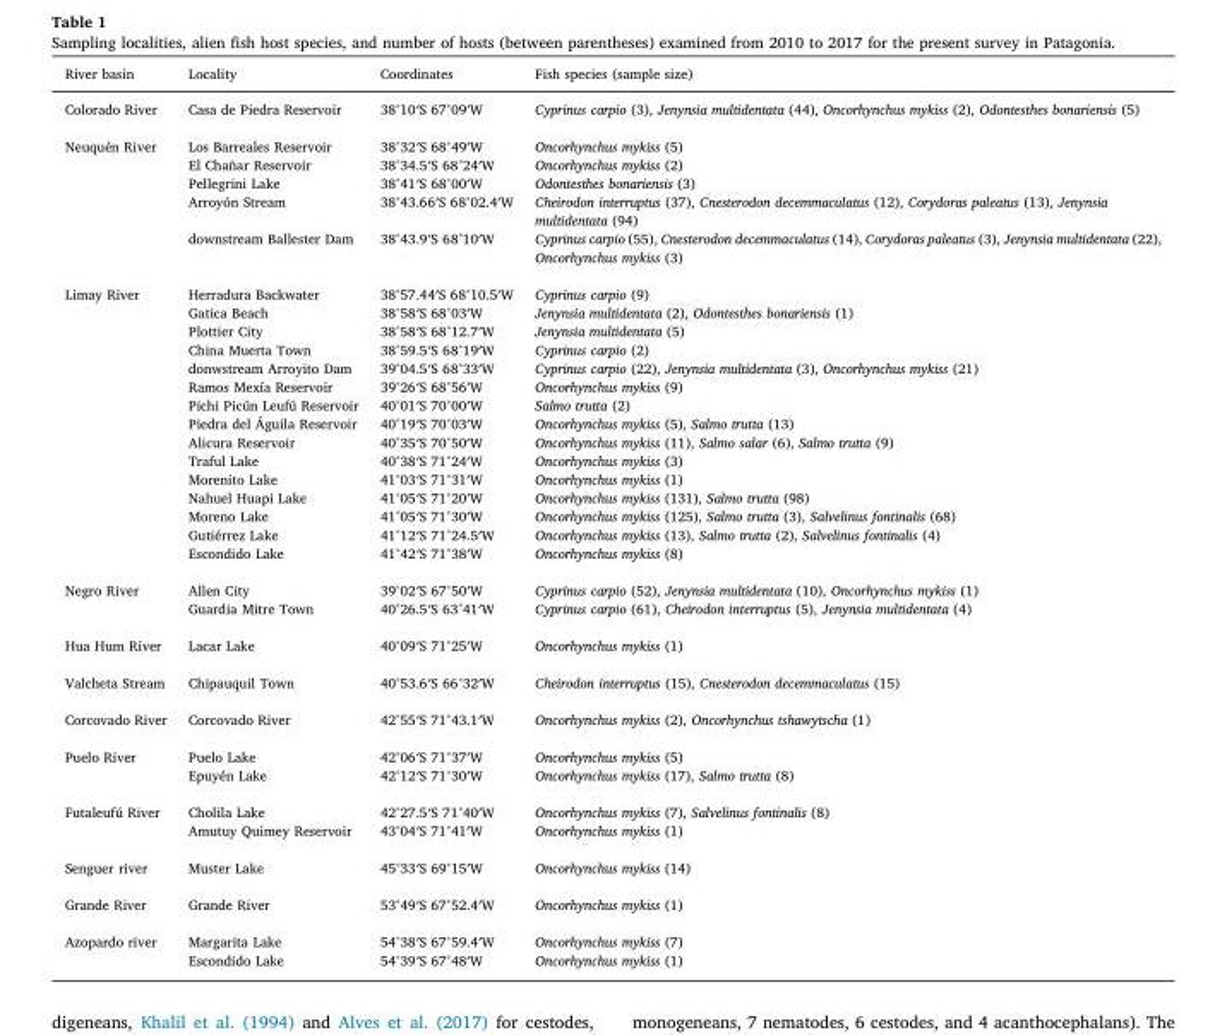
<table><thead><tr><td>River basin</td><td>Locality</td><td>Coordinates</td><td>Fish species (sample size)</td></tr></thead><tbody><tr><td>Colorado River</td><td>Casa de Piedra Reservoir</td><td>38°10′S 67°09′W</td><td>Cyprinus carpio (3), Jenynsia multidentata (44), Oncorhynchus mykiss (2), Odontesthes bonariensis (5)</td></tr><tr><td rowspan="5">Neuquén River</td><td>Los Barreales Reservoir</td><td>38°32′S 68°49′W</td><td>Oncorhynchus mykiss (5)</td></tr><tr><td>El Chañar Reservoir</td><td>38°34.5′S 68°24′W</td><td>Oncorhynchus mykiss (2)</td></tr><tr><td>Pellegrini Lake</td><td>38°41′S 68°00′W</td><td>Odontesthes bonariensis (3)</td></tr><tr><td>Arroyón Stream</td><td>38°43.66′S 68°02.4′W</td><td>Cheirodon interruptus (37), Cnesterodon decemmaculatus (12), Corydoras paleatus (13), Jenynsia multidentata (94)</td></tr><tr><td>downstream Ballester Dam</td><td>38°43.9′S 68°10′W</td><td>Cyprinus carpio (55), Cnesterodon decemmaculatus (14), Corydoras paleatus (3), Jenynsia multidentata (22), Oncorhynchus mykiss (3)</td></tr><tr><td rowspan="15">Limay River</td><td>Herradura Backwater</td><td>38°57.44′S 68°10.5′W</td><td>Cyprinus carpio (9)</td></tr><tr><td>Gatica Beach</td><td>38°58′S 68°03′W</td><td>Jenynsia multidentata (2), Odontesthes bonariensis (1)</td></tr><tr><td>Plottier City</td><td>38°58′S 68°12.7′W</td><td>Jenynsia multidentata (5)</td></tr><tr><td>China Muerta Town</td><td>38°59.5′S 68°19′W</td><td>Cyprinus carpio (2)</td></tr><tr><td>donwstream Arroyito Dam</td><td>39°04.5′S 68°33′W</td><td>Cyprinus carpio (22), Jenynsia multidentata (3), Oncorhynchus mykiss (21)</td></tr><tr><td>Ramos Mexía Reservoir</td><td>39°26′S 68°56′W</td><td>Oncorhynchus mykiss (9)</td></tr><tr><td>Pichi Picún Leufú Reservoir</td><td>40°01′S 70°00′W</td><td>Salmo trutta (2)</td></tr><tr><td>Piedra del Águila Reservoir</td><td>40°19′S 70°03′W</td><td>Oncorhynchus mykiss (5), Salmo trutta (13)</td></tr><tr><td>Alicura Reservoir</td><td>40°35′S 70°50′W</td><td>Oncorhynchus mykiss (11), Salmo salar (6), Salmo trutta (9)</td></tr><tr><td>Traful Lake</td><td>40°38′S 71°24′W</td><td>Oncorhynchus mykiss (3)</td></tr><tr><td>Morenito Lake</td><td>41°03′S 71°31′W</td><td>Oncorhynchus mykiss (1)</td></tr><tr><td>Nahuel Huapi Lake</td><td>41°05′S 71°20′W</td><td>Oncorhynchus mykiss (131), Salmo trutta (98)</td></tr><tr><td>Moreno Lake</td><td>41°05′S 71°30′W</td><td>Oncorhynchus mykiss (125), Salmo trutta (3), Salvelinus fontinalis (68)</td></tr><tr><td>Gutiérrez Lake</td><td>41°12′S 71°24.5′W</td><td>Oncorhynchus mykiss (13), Salmo trutta (2), Salvelinus fontinalis (4)</td></tr><tr><td>Escondido Lake</td><td>41°42′S 71°38′W</td><td>Oncorhynchus mykiss (8)</td></tr><tr><td rowspan="2">Negro River</td><td>Allen City</td><td>39°02′S 67°50′W</td><td>Cyprinus carpio (52), Jenynsia multidentata (10), Oncorhynchus mykiss (1)</td></tr><tr><td>Guardia Mitre Town</td><td>40°26.5′S 63°41′W</td><td>Cyprinus carpio (61), Cheirodon interruptus (5), Jenynsia multidentata (4)</td></tr><tr><td>Hua Hum River</td><td>Lacar Lake</td><td>40°09′S 71°25′W</td><td>Oncorhynchus mykiss (1)</td></tr><tr><td>Valcheta Stream</td><td>Chipauquil Town</td><td>40°53.6′S 66°32′W</td><td>Cheirodon interruptus (15), Cnesterodon decemmaculatus (15)</td></tr><tr><td>Corcovado River</td><td>Corcovado River</td><td>42°55′S 71°43.1′W</td><td>Oncorhynchus mykiss (2), Oncorhynchus tshawytscha (1)</td></tr><tr><td rowspan="2">Puelo River</td><td>Puelo Lake</td><td>42°06′S 71°37′W</td><td>Oncorhynchus mykiss (5)</td></tr><tr><td>Epuyén Lake</td><td>42°12′S 71°30′W</td><td>Oncorhynchus mykiss (17), Salmo trutta (8)</td></tr><tr><td rowspan="2">Futaleufú River</td><td>Cholila Lake</td><td>42°27.5′S 71°40′W</td><td>Oncorhynchus mykiss (7), Salvelinus fontinalis (8)</td></tr><tr><td>Amutuy Quimey Reservoir</td><td>43°04′S 71°41′W</td><td>Oncorhynchus mykiss (1)</td></tr><tr><td>Senguer river</td><td>Muster Lake</td><td>45°33′S 69°15′W</td><td>Oncorhynchus mykiss (14)</td></tr><tr><td>Grande River</td><td>Grande River</td><td>53°49′S 67°52.4′W</td><td>Oncorhynchus mykiss (1)</td></tr><tr><td rowspan="2">Azopardo river</td><td>Margarita Lake</td><td>54°38′S 67°59.4′W</td><td>Oncorhynchus mykiss (7)</td></tr><tr><td>Escondido Lake</td><td>54°39′S 67°48′W</td><td>Oncorhynchus mykiss (1)</td></tr></tbody></table>